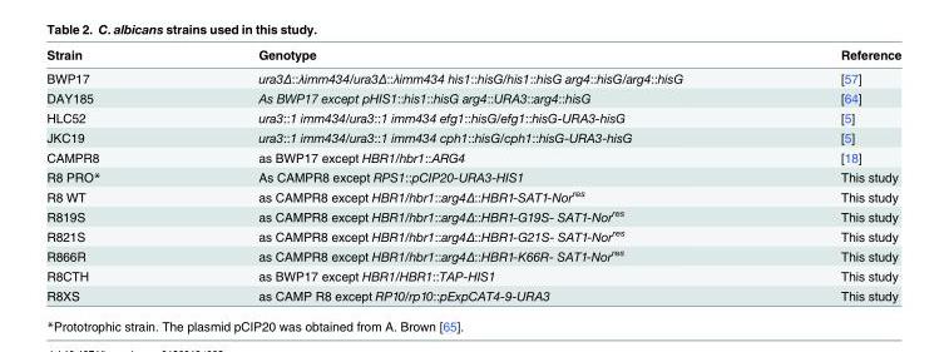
<table><thead><tr><td>Strain</td><td>Genotype</td><td>Reference</td></tr></thead><tbody><tr><td>BWP17</td><td>ura3Δ::λimm434/ura3Δ::λimm434 his1::hisG/his1::hisG arg4::hisG/arg4::hisG</td><td>[57]</td></tr><tr><td>DAY185</td><td>As BWP17 except pHIS1::his1::hisG arg4::URA3::arg4::hisG</td><td>[64]</td></tr><tr><td>HLC52</td><td>ura3::1 imm434/ura3::1 imm434 efg1::hisG/efg1::hisG-URA3-hisG</td><td>[5]</td></tr><tr><td>JKC19</td><td>ura3::1 imm434/ura3::1 imm434 cph1::hisG/cph1::hisG-URA3-hisG</td><td>[5]</td></tr><tr><td>CAMPR8</td><td>as BWP17 except HBR1/hbr1::ARG4</td><td>[18]</td></tr><tr><td>R8 PRO*</td><td>As CAMPR8 except RPS1::pCIP20-URA3-HIS1</td><td>This study</td></tr><tr><td>R8 WT</td><td>as CAMPR8 except HBR1/hbr1::arg4Δ::HBR1-SAT1-Nor<sup>res</sup></td><td>This study</td></tr><tr><td>R819S</td><td>as CAMPR8 except HBR1/hbr1::arg4Δ::HBR1-G19S- SAT1-Nor<sup>res</sup></td><td>This study</td></tr><tr><td>R821S</td><td>as CAMPR8 except HBR1/hbr1::arg4Δ::HBR1-G21S- SAT1-Nor<sup>res</sup></td><td>This study</td></tr><tr><td>R866R</td><td>as CAMPR8 except HBR1/hbr1::arg4Δ::HBR1-K66R- SAT1-Nor<sup>res</sup></td><td>This study</td></tr><tr><td>R8CTH</td><td>as BWP17 except HBR1/HBR1::TAP-HIS1</td><td>This study</td></tr><tr><td>R8XS</td><td>as CAMP R8 except RP10/rp10::pExpCAT4-9-URA3</td><td>This study</td></tr></tbody></table>